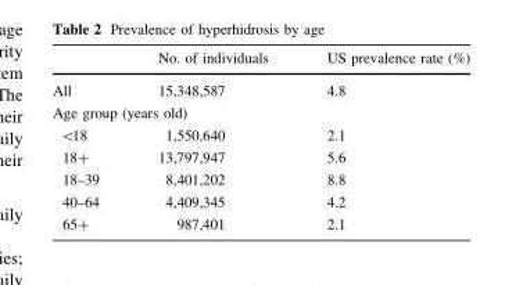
<table><thead><tr><td></td><td>No. of individuals</td><td>US prevalence rate (%)</td></tr></thead><tbody><tr><td>All</td><td>15,348,587</td><td>4.8</td></tr><tr><td colspan="3">Age group (years old)</td></tr><tr><td>&lt;18</td><td>1,550,640</td><td>2.1</td></tr><tr><td>18+</td><td>13,797,947</td><td>5.6</td></tr><tr><td>18–39</td><td>8,401,202</td><td>8.8</td></tr><tr><td>40–64</td><td>4,409,345</td><td>4.2</td></tr><tr><td>65+</td><td>987,401</td><td>2.1</td></tr></tbody></table>